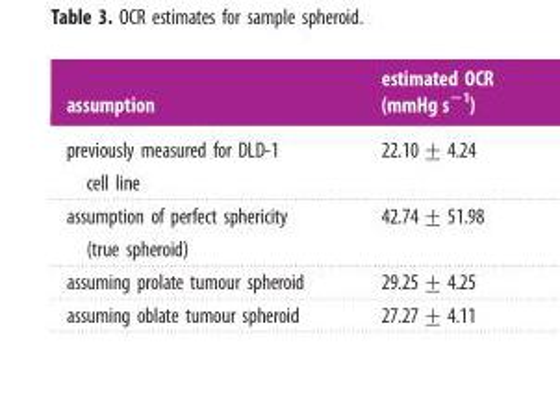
<table><thead><tr><td>assumption</td><td>estimated OCR (mmHg s<sup>−1</sup>)</td></tr></thead><tbody><tr><td>previously measured for DLD-1 cell line</td><td>22.10+ 4.24</td></tr><tr><td>assumption of perfect sphericity (true spheroid)</td><td>42.74+ 51.98</td></tr><tr><td>assuming prolate tumour spheroid</td><td>29.25+ 4.25</td></tr><tr><td>assuming oblate tumour spheroid</td><td>27.27+ 4.11</td></tr></tbody></table>